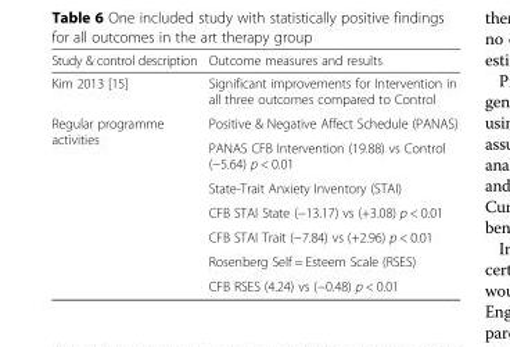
<table><thead><tr><td>Study &amp; control description</td><td>Outcome measures and results</td></tr></thead><tbody><tr><td>Kim 2013 [15]</td><td>Significant improvements for Intervention in all three outcomes compared to Control</td></tr><tr><td rowspan="7">Regular programme activities</td><td>Positive &amp; Negative Affect Schedule (PANAS)</td></tr><tr><td>PANAS CFB Intervention (19.88) vs Control (−5.64) p &lt; 0.01</td></tr><tr><td>State-Trait Anxiety Inventory (STAI)</td></tr><tr><td>CFB STAI State (−13.17) vs (+3.08) p &lt; 0.01</td></tr><tr><td>CFB STAI Trait (−7.84) vs (+2.96) p &lt; 0.01</td></tr><tr><td>Rosenberg Self = Esteem Scale (RSES)</td></tr><tr><td>CFB RSES (4.24) vs (−0.48) p &lt; 0.01</td></tr></tbody></table>